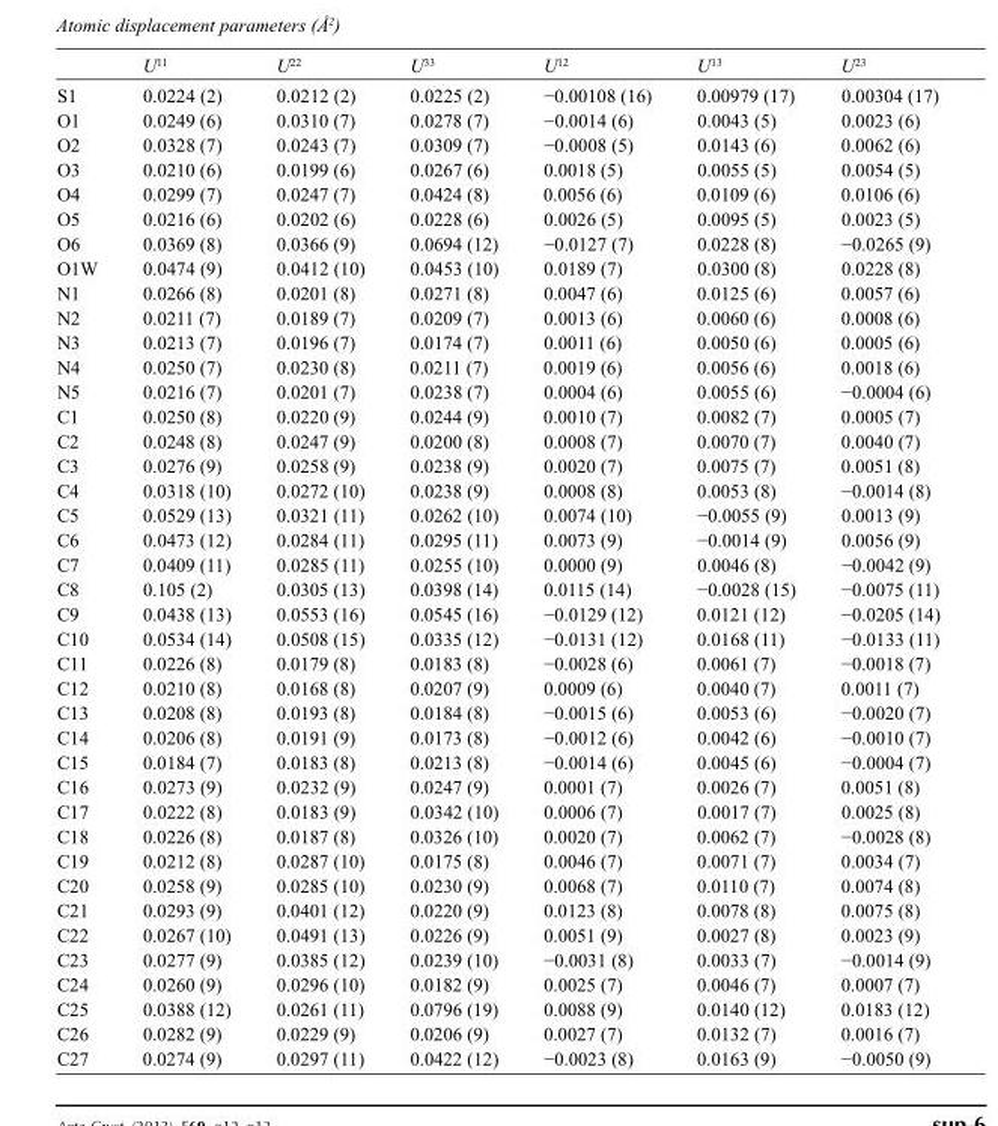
<table><thead><tr><td></td><td>U<sup>11</sup></td><td>U<sup>22</sup></td><td>U<sup>33</sup></td><td>U<sup>12</sup></td><td>U<sup>13</sup></td><td>U<sup>23</sup></td></tr></thead><tbody><tr><td>S1</td><td>0.0224 (2)</td><td>0.0212 (2)</td><td>0.0225 (2)</td><td>−0.00108 (16)</td><td>0.00979 (17)</td><td>0.00304 (17)</td></tr><tr><td>O1</td><td>0.0249 (6)</td><td>0.0310 (7)</td><td>0.0278 (7)</td><td>−0.0014 (6)</td><td>0.0043 (5)</td><td>0.0023 (6)</td></tr><tr><td>O2</td><td>0.0328 (7)</td><td>0.0243 (7)</td><td>0.0309 (7)</td><td>−0.0008 (5)</td><td>0.0143 (6)</td><td>0.0062 (6)</td></tr><tr><td>O3</td><td>0.0210 (6)</td><td>0.0199 (6)</td><td>0.0267 (6)</td><td>0.0018 (5)</td><td>0.0055 (5)</td><td>0.0054 (5)</td></tr><tr><td>O4</td><td>0.0299 (7)</td><td>0.0247 (7)</td><td>0.0424 (8)</td><td>0.0056 (6)</td><td>0.0109 (6)</td><td>0.0106 (6)</td></tr><tr><td>O5</td><td>0.0216 (6)</td><td>0.0202 (6)</td><td>0.0228 (6)</td><td>0.0026 (5)</td><td>0.0095 (5)</td><td>0.0023 (5)</td></tr><tr><td>O6</td><td>0.0369 (8)</td><td>0.0366 (9)</td><td>0.0694 (12)</td><td>−0.0127 (7)</td><td>0.0228 (8)</td><td>−0.0265 (9)</td></tr><tr><td>O1W</td><td>0.0474 (9)</td><td>0.0412 (10)</td><td>0.0453 (10)</td><td>0.0189 (7)</td><td>0.0300 (8)</td><td>0.0228 (8)</td></tr><tr><td>N1</td><td>0.0266 (8)</td><td>0.0201 (8)</td><td>0.0271 (8)</td><td>0.0047 (6)</td><td>0.0125 (6)</td><td>0.0057 (6)</td></tr><tr><td>N2</td><td>0.0211 (7)</td><td>0.0189 (7)</td><td>0.0209 (7)</td><td>0.0013 (6)</td><td>0.0060 (6)</td><td>0.0008 (6)</td></tr><tr><td>N3</td><td>0.0213 (7)</td><td>0.0196 (7)</td><td>0.0174 (7)</td><td>0.0011 (6)</td><td>0.0050 (6)</td><td>0.0005 (6)</td></tr><tr><td>N4</td><td>0.0250 (7)</td><td>0.0230 (8)</td><td>0.0211 (7)</td><td>0.0019 (6)</td><td>0.0056 (6)</td><td>0.0018 (6)</td></tr><tr><td>N5</td><td>0.0216 (7)</td><td>0.0201 (7)</td><td>0.0238 (7)</td><td>0.0004 (6)</td><td>0.0055 (6)</td><td>−0.0004 (6)</td></tr><tr><td>C1</td><td>0.0250 (8)</td><td>0.0220 (9)</td><td>0.0244 (9)</td><td>0.0010 (7)</td><td>0.0082 (7)</td><td>0.0005 (7)</td></tr><tr><td>C2</td><td>0.0248 (8)</td><td>0.0247 (9)</td><td>0.0200 (8)</td><td>0.0008 (7)</td><td>0.0070 (7)</td><td>0.0040 (7)</td></tr><tr><td>C3</td><td>0.0276 (9)</td><td>0.0258 (9)</td><td>0.0238 (9)</td><td>0.0020 (7)</td><td>0.0075 (7)</td><td>0.0051 (8)</td></tr><tr><td>C4</td><td>0.0318 (10)</td><td>0.0272 (10)</td><td>0.0238 (9)</td><td>0.0008 (8)</td><td>0.0053 (8)</td><td>−0.0014 (8)</td></tr><tr><td>C5</td><td>0.0529 (13)</td><td>0.0321 (11)</td><td>0.0262 (10)</td><td>0.0074 (10)</td><td>−0.0055 (9)</td><td>0.0013 (9)</td></tr><tr><td>C6</td><td>0.0473 (12)</td><td>0.0284 (11)</td><td>0.0295 (11)</td><td>0.0073 (9)</td><td>−0.0014 (9)</td><td>0.0056 (9)</td></tr><tr><td>C7</td><td>0.0409 (11)</td><td>0.0285 (11)</td><td>0.0255 (10)</td><td>0.0000 (9)</td><td>0.0046 (8)</td><td>−0.0042 (9)</td></tr><tr><td>C8</td><td>0.105 (2)</td><td>0.0305 (13)</td><td>0.0398 (14)</td><td>0.0115 (14)</td><td>−0.0028 (15)</td><td>−0.0075 (11)</td></tr><tr><td>C9</td><td>0.0438 (13)</td><td>0.0553 (16)</td><td>0.0545 (16)</td><td>−0.0129 (12)</td><td>0.0121 (12)</td><td>−0.0205 (14)</td></tr><tr><td>C10</td><td>0.0534 (14)</td><td>0.0508 (15)</td><td>0.0335 (12)</td><td>−0.0131 (12)</td><td>0.0168 (11)</td><td>−0.0133 (11)</td></tr><tr><td>C11</td><td>0.0226 (8)</td><td>0.0179 (8)</td><td>0.0183 (8)</td><td>−0.0028 (6)</td><td>0.0061 (7)</td><td>−0.0018 (7)</td></tr><tr><td>C12</td><td>0.0210 (8)</td><td>0.0168 (8)</td><td>0.0207 (9)</td><td>0.0009 (6)</td><td>0.0040 (7)</td><td>0.0011 (7)</td></tr><tr><td>C13</td><td>0.0208 (8)</td><td>0.0193 (8)</td><td>0.0184 (8)</td><td>−0.0015 (6)</td><td>0.0053 (6)</td><td>−0.0020 (7)</td></tr><tr><td>C14</td><td>0.0206 (8)</td><td>0.0191 (9)</td><td>0.0173 (8)</td><td>−0.0012 (6)</td><td>0.0042 (6)</td><td>−0.0010 (7)</td></tr><tr><td>C15</td><td>0.0184 (7)</td><td>0.0183 (8)</td><td>0.0213 (8)</td><td>−0.0014 (6)</td><td>0.0045 (6)</td><td>−0.0004 (7)</td></tr><tr><td>C16</td><td>0.0273 (9)</td><td>0.0232 (9)</td><td>0.0247 (9)</td><td>0.0001 (7)</td><td>0.0026 (7)</td><td>0.0051 (8)</td></tr><tr><td>C17</td><td>0.0222 (8)</td><td>0.0183 (9)</td><td>0.0342 (10)</td><td>0.0006 (7)</td><td>0.0017 (7)</td><td>0.0025 (8)</td></tr><tr><td>C18</td><td>0.0226 (8)</td><td>0.0187 (8)</td><td>0.0326 (10)</td><td>0.0020 (7)</td><td>0.0062 (7)</td><td>−0.0028 (8)</td></tr><tr><td>C19</td><td>0.0212 (8)</td><td>0.0287 (10)</td><td>0.0175 (8)</td><td>0.0046 (7)</td><td>0.0071 (7)</td><td>0.0034 (7)</td></tr><tr><td>C20</td><td>0.0258 (9)</td><td>0.0285 (10)</td><td>0.0230 (9)</td><td>0.0068 (7)</td><td>0.0110 (7)</td><td>0.0074 (8)</td></tr><tr><td>C21</td><td>0.0293 (9)</td><td>0.0401 (12)</td><td>0.0220 (9)</td><td>0.0123 (8)</td><td>0.0078 (8)</td><td>0.0075 (8)</td></tr><tr><td>C22</td><td>0.0267 (10)</td><td>0.0491 (13)</td><td>0.0226 (9)</td><td>0.0051 (9)</td><td>0.0027 (8)</td><td>0.0023 (9)</td></tr><tr><td>C23</td><td>0.0277 (9)</td><td>0.0385 (12)</td><td>0.0239 (10)</td><td>−0.0031 (8)</td><td>0.0033 (7)</td><td>−0.0014 (9)</td></tr><tr><td>C24</td><td>0.0260 (9)</td><td>0.0296 (10)</td><td>0.0182 (9)</td><td>0.0025 (7)</td><td>0.0046 (7)</td><td>0.0007 (7)</td></tr><tr><td>C25</td><td>0.0388 (12)</td><td>0.0261 (11)</td><td>0.0796 (19)</td><td>0.0088 (9)</td><td>0.0140 (12)</td><td>0.0183 (12)</td></tr><tr><td>C26</td><td>0.0282 (9)</td><td>0.0229 (9)</td><td>0.0206 (9)</td><td>0.0027 (7)</td><td>0.0132 (7)</td><td>0.0016 (7)</td></tr><tr><td>C27</td><td>0.0274 (9)</td><td>0.0297 (11)</td><td>0.0422 (12)</td><td>−0.0023 (8)</td><td>0.0163 (9)</td><td>−0.0050 (9)</td></tr></tbody></table>